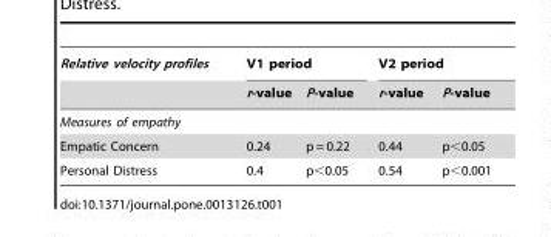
<table><thead><tr><td rowspan="2">Relative velocity profiles</td><td colspan="2">V1 period</td><td colspan="2">V2 period</td></tr><tr><td>r-value</td><td>P-value</td><td>r-value</td><td>P-value</td></tr></thead><tbody><tr><td colspan="5">Measures of empathy</td></tr><tr><td>Empatic Concern</td><td>0.24</td><td>p = 0.22</td><td>0.44</td><td>p&lt;0.05</td></tr><tr><td>Personal Distress</td><td>0.4</td><td>p&lt;0.05</td><td>0.54</td><td>p&lt;0.001</td></tr></tbody></table>